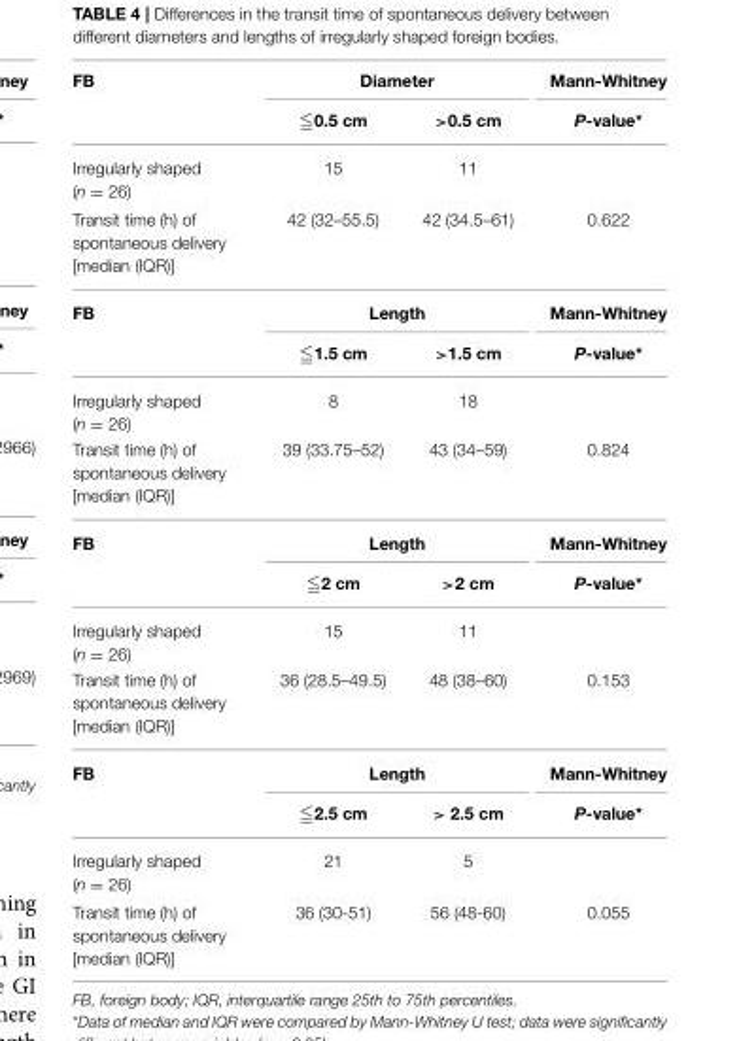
<table><thead><tr><td rowspan="2">FB</td><td colspan="2">Diameter</td><td rowspan="2">Mann-Whitney P-value*</td></tr><tr><td>≦0.5 cm</td><td>&gt;0.5 cm</td></tr></thead><tbody><tr><td>Irregularly shaped (n = 26)</td><td>15</td><td>11</td><td></td></tr><tr><td>Transit time (h) of spontaneous delivery [median (IQR)]</td><td>42 (32–55.5)</td><td>42 (34.5–61)</td><td>0.622</td></tr><tr><td rowspan="2">FB</td><td colspan="2">Length</td><td>Mann-Whitney</td></tr><tr><td>≦1.5 cm</td><td>&gt;1.5 cm</td><td>P-value*</td></tr><tr><td>Irregularly shaped (n = 26)</td><td>8</td><td>18</td><td></td></tr><tr><td>Transit time (h) of spontaneous delivery [median (IQR)]</td><td>39 (33.75–52)</td><td>43 (34–59)</td><td>0.824</td></tr><tr><td rowspan="2">FB</td><td colspan="2">Length</td><td>Mann-Whitney</td></tr><tr><td>≦2 cm</td><td>&gt;2 cm</td><td>P-value*</td></tr><tr><td>Irregularly shaped (n = 26)</td><td>15</td><td>11</td><td></td></tr><tr><td>Transit time (h) of spontaneous delivery [median (IQR)]</td><td>36 (28.5–49.5)</td><td>48 (38–60)</td><td>0.153</td></tr><tr><td rowspan="2">FB</td><td colspan="2">Length</td><td>Mann-Whitney</td></tr><tr><td>≦2.5 cm</td><td>&gt; 2.5 cm</td><td>P-value*</td></tr><tr><td>Irregularly shaped (n = 26)</td><td>21</td><td>5</td><td></td></tr><tr><td>Transit time (h) of spontaneous delivery [median (IQR)]</td><td>36 (30-51)</td><td>56 (48-60)</td><td>0.055</td></tr></tbody></table>